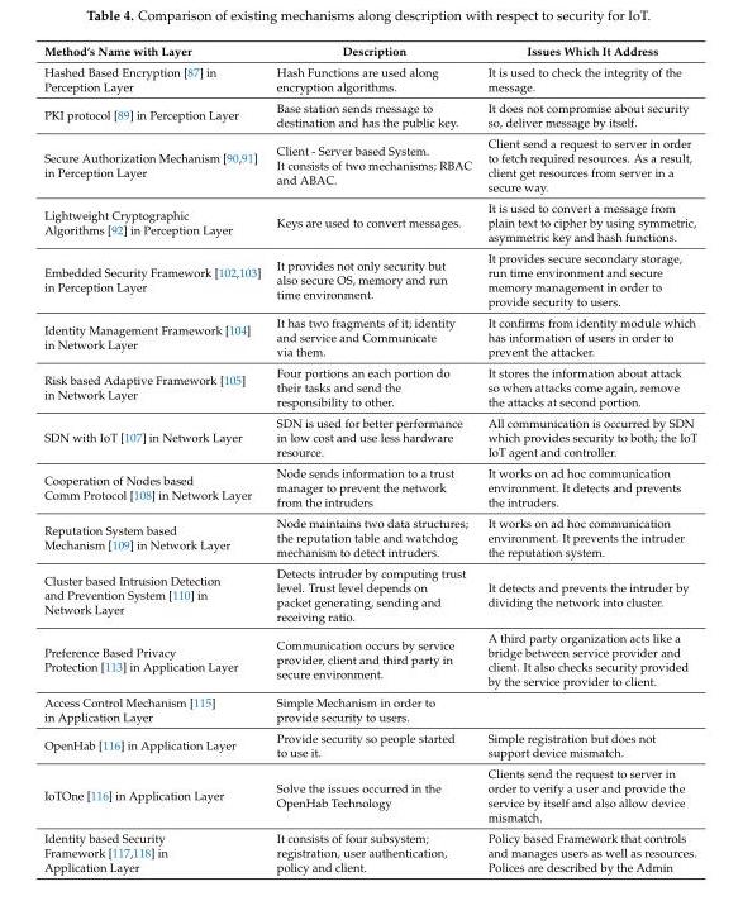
<table><thead><tr><td>Method’s Name with Layer</td><td>Description</td><td>Issues Which It Address</td></tr></thead><tbody><tr><td>Hashed Based Encryption [87] in Perception Layer</td><td>Hash Functions are used along encryption algorithms.</td><td>It is used to check the integrity of the message.</td></tr><tr><td>PKI protocol [89] in Perception Layer</td><td>Base station sends message to destination and has the public key.</td><td>It does not compromise about security so, deliver message by itself.</td></tr><tr><td>Secure Authorization Mechanism [90,91] in Perception Layer</td><td>Client - Server based System. It consists of two mechanisms; RBAC and ABAC.</td><td>Client send a request to server in order to fetch required resources. As a result, client get resources from server in a secure way.</td></tr><tr><td>Lightweight Cryptographic Algorithms [92] in Perception Layer</td><td>Keys are used to convert messages.</td><td>It is used to convert a message from plain text to cipher by using symmetric, asymmetric key and hash functions.</td></tr><tr><td>Embedded Security Framework [102,103] in Perception Layer</td><td>It provides not only security but also secure OS, memory and run time environment.</td><td>It provides secure secondary storage, run time environment and secure memory management in order to provide security to users.</td></tr><tr><td>Identity Management Framework [104] in Network Layer</td><td>It has two fragments of it; identity and service and Communicate via them.</td><td>It confirms from identity module which has information of users in order to prevent the attacker.</td></tr><tr><td>Risk based Adaptive Framework [105] in Network Layer</td><td>Four portions an each portion do their tasks and send the responsibility to other.</td><td>It stores the information about attack so when attacks come again, remove the attacks at second portion.</td></tr><tr><td>SDN with IoT [107] in Network Layer</td><td>SDN is used for better performance in low cost and use less hardware resource.</td><td>All communication is occurred by SDN which provides security to both; the IoT IoT agent and controller.</td></tr><tr><td>Cooperation of Nodes based Comm Protocol [108] in Network Layer</td><td>Node sends information to a trust manager to prevent the network from the intruders</td><td>It works on ad hoc communication environment. It detects and prevents the intruders.</td></tr><tr><td>Reputation System based Mechanism [109] in Network Layer</td><td>Node maintains two data structures; the reputation table and watchdog mechanism to detect intruders.</td><td>It works on ad hoc communication environment. It prevents the intruder the reputation system.</td></tr><tr><td>Cluster based Intrusion Detection and Prevention System [110] in Network Layer</td><td>Detects intruder by computing trust level. Trust level depends on packet generating, sending and receiving ratio.</td><td>It detects and prevents the intruder by dividing the network into cluster.</td></tr><tr><td>Preference Based Privacy Protection [113] in Application Layer</td><td>Communication occurs by service provider, client and third party in secure environment.</td><td>A third party organization acts like a bridge between service provider and client. It also checks security provided by the service provider to client.</td></tr><tr><td>Access Control Mechanism [115] in Application Layer</td><td>Simple Mechanism in order to provide security to users.</td><td></td></tr><tr><td>OpenHab [116] in Application Layer</td><td>Provide security so people started to use it.</td><td>Simple registration but does not support device mismatch.</td></tr><tr><td>IoTOne [116] in Application Layer</td><td>Solve the issues occurred in the OpenHab Technology</td><td>Clients send the request to server in order to verify a user and provide the service by itself and also allow device mismatch.</td></tr><tr><td>Identity based Security Framework [117,118] in Application Layer</td><td>It consists of four subsystem; registration, user authentication, policy and client.</td><td>Policy based Framework that controls and manages users as well as resources. Polices are described by the Admin</td></tr></tbody></table>